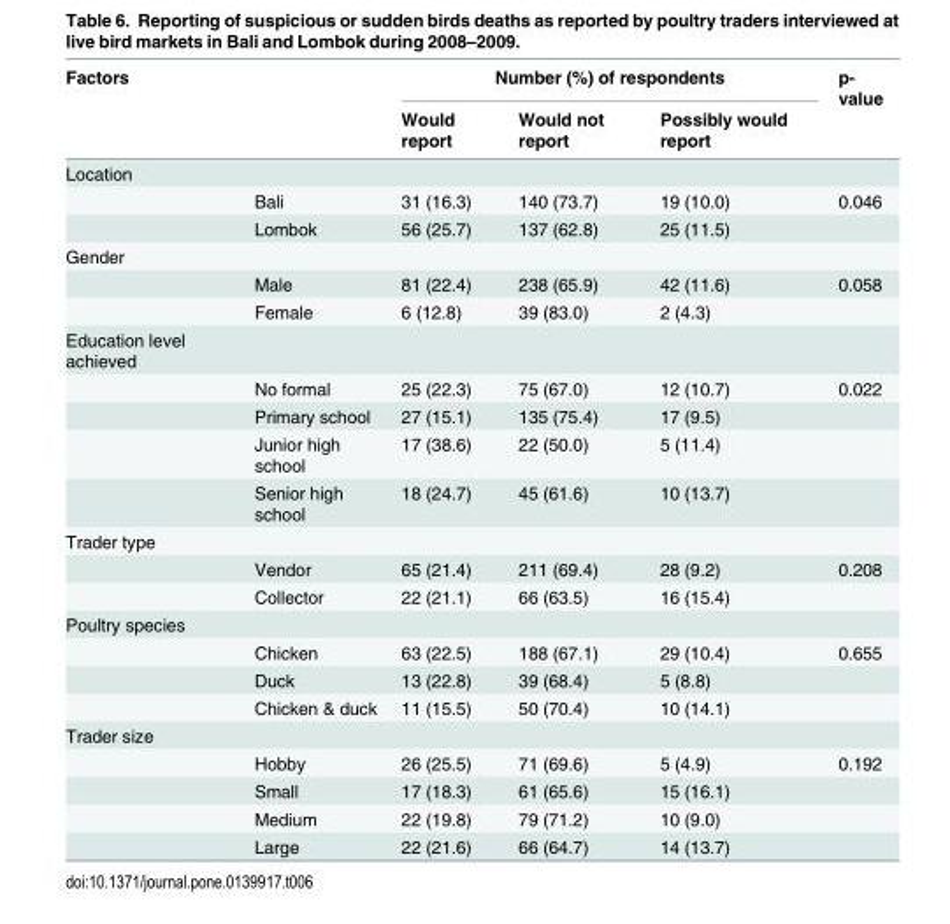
<table><thead><tr><td colspan="2">Factors</td><td colspan="3">Number (%) of respondents</td><td rowspan="2">p- value</td></tr><tr><td></td><td></td><td>Would report</td><td>Would not report</td><td>Possibly would report</td></tr></thead><tbody><tr><td colspan="6">Location</td></tr><tr><td></td><td>Bali</td><td>31 (16.3)</td><td>140 (73.7)</td><td>19 (10.0)</td><td>0.046</td></tr><tr><td></td><td>Lombok</td><td>56 (25.7)</td><td>137 (62.8)</td><td>25 (11.5)</td><td></td></tr><tr><td colspan="6">Gender</td></tr><tr><td></td><td>Male</td><td>81 (22.4)</td><td>238 (65.9)</td><td>42 (11.6)</td><td>0.058</td></tr><tr><td></td><td>Female</td><td>6 (12.8)</td><td>39 (83.0)</td><td>2 (4.3)</td><td></td></tr><tr><td colspan="6">Education level achieved</td></tr><tr><td></td><td>No formal</td><td>25 (22.3)</td><td>75 (67.0)</td><td>12 (10.7)</td><td>0.022</td></tr><tr><td></td><td>Primary school</td><td>27 (15.1)</td><td>135 (75.4)</td><td>17 (9.5)</td><td></td></tr><tr><td></td><td>Junior high school</td><td>17 (38.6)</td><td>22 (50.0)</td><td>5 (11.4)</td><td></td></tr><tr><td></td><td>Senior high school</td><td>18 (24.7)</td><td>45 (61.6)</td><td>10 (13.7)</td><td></td></tr><tr><td colspan="6">Trader type</td></tr><tr><td></td><td>Vendor</td><td>65 (21.4)</td><td>211 (69.4)</td><td>28 (9.2)</td><td>0.208</td></tr><tr><td></td><td>Collector</td><td>22 (21.1)</td><td>66 (63.5)</td><td>16 (15.4)</td><td></td></tr><tr><td colspan="6">Poultry species</td></tr><tr><td></td><td>Chicken</td><td>63 (22.5)</td><td>188 (67.1)</td><td>29 (10.4)</td><td>0.655</td></tr><tr><td></td><td>Duck</td><td>13 (22.8)</td><td>39 (68.4)</td><td>5 (8.8)</td><td></td></tr><tr><td></td><td>Chicken &amp; duck</td><td>11 (15.5)</td><td>50 (70.4)</td><td>10 (14.1)</td><td></td></tr><tr><td colspan="6">Trader size</td></tr><tr><td></td><td>Hobby</td><td>26 (25.5)</td><td>71 (69.6)</td><td>5 (4.9)</td><td>0.192</td></tr><tr><td></td><td>Small</td><td>17 (18.3)</td><td>61 (65.6)</td><td>15 (16.1)</td><td></td></tr><tr><td></td><td>Medium</td><td>22 (19.8)</td><td>79 (71.2)</td><td>10 (9.0)</td><td></td></tr><tr><td></td><td>Large</td><td>22 (21.6)</td><td>66 (64.7)</td><td>14 (13.7)</td><td></td></tr></tbody></table>